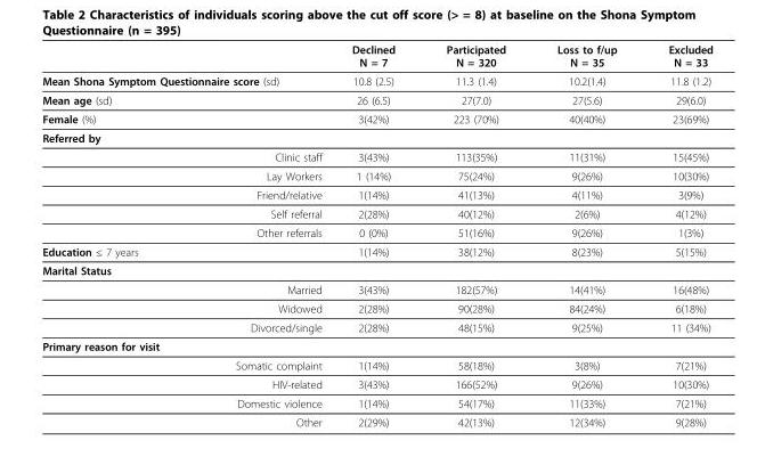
<table><thead><tr><td></td><td>Declined N = 7</td><td>Participated N = 320</td><td>Loss to f/up N = 35</td><td>Excluded N = 33</td></tr></thead><tbody><tr><td>Mean Shona Symptom Questionnaire score (sd)</td><td>10.8 (2.5)</td><td>11.3 (1.4)</td><td>10.2(1.4)</td><td>11.8 (1.2)</td></tr><tr><td>Mean age (sd)</td><td>26 (6.5)</td><td>27(7.0)</td><td>27(5.6)</td><td>29(6.0)</td></tr><tr><td>Female (%)</td><td>3(42%)</td><td>223 (70%)</td><td>40(40%)</td><td>23(69%)</td></tr><tr><td colspan="5">Referred by</td></tr><tr><td>Clinic staff</td><td>3(43%)</td><td>113(35%)</td><td>11(31%)</td><td>15(45%)</td></tr><tr><td>Lay Workers</td><td>1 (14%)</td><td>75(24%)</td><td>9(26%)</td><td>10(30%)</td></tr><tr><td>Friend/relative</td><td>1(14%)</td><td>41(13%)</td><td>4(11%)</td><td>3(9%)</td></tr><tr><td>Self referral</td><td>2(28%)</td><td>40(12%)</td><td>2(6%)</td><td>4(12%)</td></tr><tr><td>Other referrals</td><td>0 (0%)</td><td>51(16%)</td><td>9(26%)</td><td>1(3%)</td></tr><tr><td>Education ≤ 7 years</td><td>1(14%)</td><td>38(12%)</td><td>8(23%)</td><td>5(15%)</td></tr><tr><td colspan="5">Marital Status</td></tr><tr><td>Married</td><td>3(43%)</td><td>182(57%)</td><td>14(41%)</td><td>16(48%)</td></tr><tr><td>Widowed</td><td>2(28%)</td><td>90(28%)</td><td>84(24%)</td><td>6(18%)</td></tr><tr><td>Divorced/single</td><td>2(28%)</td><td>48(15%)</td><td>9(25%)</td><td>11 (34%)</td></tr><tr><td colspan="5">Primary reason for visit</td></tr><tr><td>Somatic complaint</td><td>1(14%)</td><td>58(18%)</td><td>3(8%)</td><td>7(21%)</td></tr><tr><td>HIV-related</td><td>3(43%)</td><td>166(52%)</td><td>9(26%)</td><td>10(30%)</td></tr><tr><td>Domestic violence</td><td>1(14%)</td><td>54(17%)</td><td>11(33%)</td><td>7(21%)</td></tr><tr><td>Other</td><td>2(29%)</td><td>42(13%)</td><td>12(34%)</td><td>9(28%)</td></tr></tbody></table>